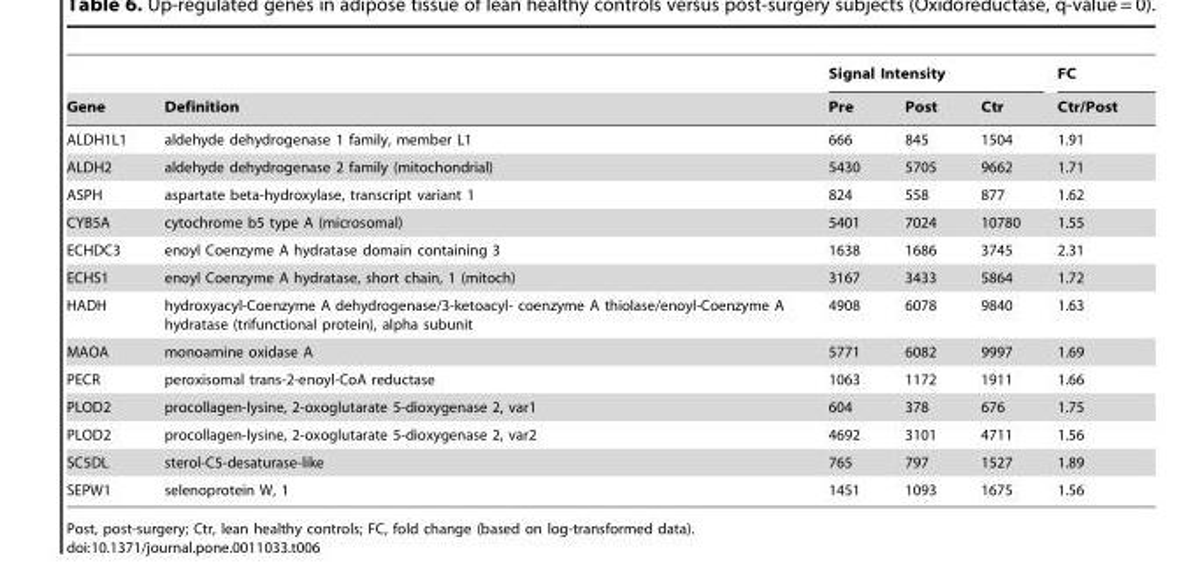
<table><thead><tr><td rowspan="2">Gene</td><td rowspan="2">Definition</td><td colspan="3">Signal Intensity</td><td rowspan="2">FC Ctr/Post</td></tr><tr><td>Pre</td><td>Post</td><td>Ctr</td></tr></thead><tbody><tr><td>ALDH1L1</td><td>aldehyde dehydrogenase 1 family, member L1</td><td>666</td><td>845</td><td>1504</td><td>1.91</td></tr><tr><td>ALDH2</td><td>aldehyde dehydrogenase 2 family (mitochondrial)</td><td>5430</td><td>5705</td><td>9662</td><td>1.71</td></tr><tr><td>ASPH</td><td>aspartate beta-hydroxylase, transcript variant 1</td><td>824</td><td>558</td><td>877</td><td>1.62</td></tr><tr><td>CYB5A</td><td>cytochrome b5 type A (microsomal)</td><td>5401</td><td>7024</td><td>10780</td><td>1.55</td></tr><tr><td>ECHDC3</td><td>enoyl Coenzyme A hydratase domain containing 3</td><td>1638</td><td>1686</td><td>3745</td><td>2.31</td></tr><tr><td>ECHS1</td><td>enoyl Coenzyme A hydratase, short chain, 1 (mitoch)</td><td>3167</td><td>3433</td><td>5864</td><td>1.72</td></tr><tr><td>HADH</td><td>hydroxyacyl-Coenzyme A dehydrogenase/3-ketoacyl- coenzyme A thiolase/enoyl-Coenzyme A hydratase (trifunctional protein), alpha subunit</td><td>4908</td><td>6078</td><td>9840</td><td>1.63</td></tr><tr><td>MAOA</td><td>monoamine oxidase A</td><td>5771</td><td>6082</td><td>9997</td><td>1.69</td></tr><tr><td>PECR</td><td>peroxisomal trans-2-enoyl-CoA reductase</td><td>1063</td><td>1172</td><td>1911</td><td>1.66</td></tr><tr><td>PLOD2</td><td>procollagen-lysine, 2-oxoglutarate 5-dioxygenase 2, var1</td><td>604</td><td>378</td><td>676</td><td>1.75</td></tr><tr><td>PLOD2</td><td>procollagen-lysine, 2-oxoglutarate 5-dioxygenase 2, var2</td><td>4692</td><td>3101</td><td>4711</td><td>1.56</td></tr><tr><td>SC5DL</td><td>sterol-C5-desaturase-like</td><td>765</td><td>797</td><td>1527</td><td>1.89</td></tr><tr><td>SEPW1</td><td>selenoprotein W, 1</td><td>1451</td><td>1093</td><td>1675</td><td>1.56</td></tr></tbody></table>